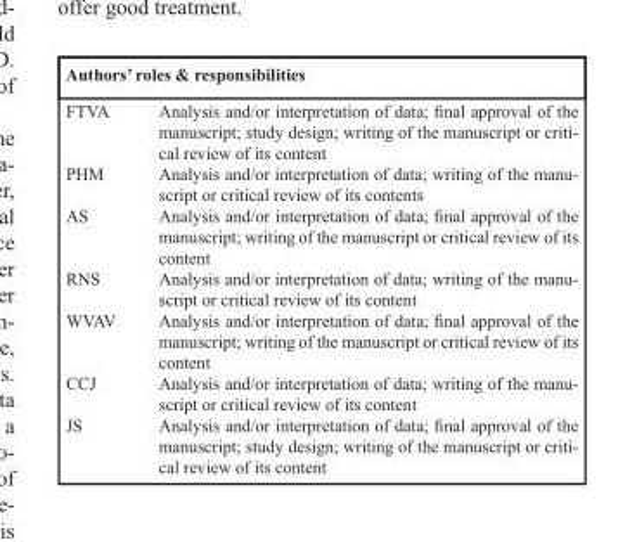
<table><thead><tr><td colspan="2">Authors’ roles &amp; responsibilities</td></tr><tr><td>FTVA</td><td>Analysis and/or interpretation of data; final approval of the manuscript; study design; writing of the manuscript or criti- cal review of its content</td></tr></thead><tbody><tr><td>PHM</td><td>Analysis and/or interpretation of data; writing of the manu- script or critical review of its contents</td></tr><tr><td>AS</td><td>Analysis and/or interpretation of data; final approval of the manuscript; writing of the manuscript or critical review of its content</td></tr><tr><td>RNS</td><td>Analysis and/or interpretation of data; writing of the manu- script or critical review of its content</td></tr><tr><td>WVAV</td><td>Analysis and/or interpretation of data; final approval of the manuscript; writing of the manuscript or critical review of its content</td></tr><tr><td>CCJ</td><td>Analysis and/or interpretation of data; writing of the manu- script or critical review of its content</td></tr><tr><td>JS</td><td>Analysis and/or interpretation of data; final approval of the manuscript; study design; writing of the manuscript or criti- cal review of its content</td></tr></tbody></table>